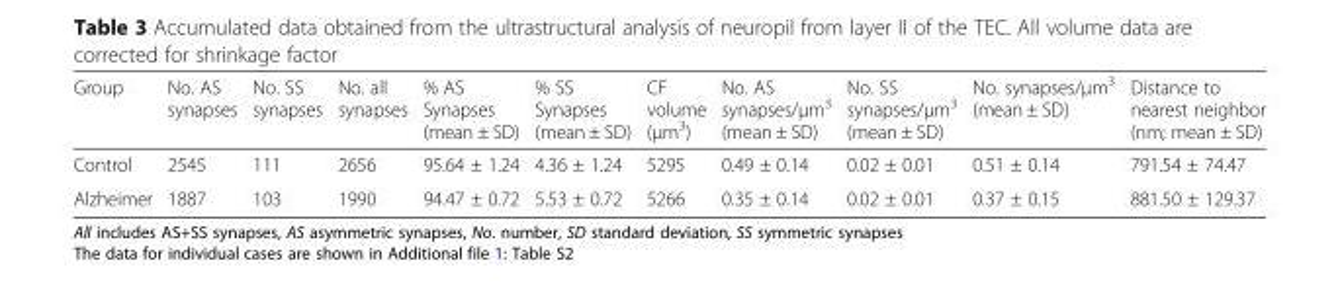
<table><thead><tr><td>Group</td><td>No. AS synapses</td><td>No. SS synapses</td><td>No. all synapses</td><td>% AS Synapses (mean ± SD)</td><td>% SS Synapses (mean ± SD)</td><td>CF volume (μm<sup>3</sup>)</td><td>No. AS synapses/μm<sup>3</sup> (mean ± SD)</td><td>No. SS synapses/μm<sup>3</sup> (mean ± SD)</td><td>No. synapses/μm<sup>3</sup> (mean ± SD)</td><td>Distance to nearest neighbor (nm; mean ± SD)</td></tr></thead><tbody><tr><td>Control</td><td>2545</td><td>111</td><td>2656</td><td>95.64 ± 1.24</td><td>4.36 ± 1.24</td><td>5295</td><td>0.49 ± 0.14</td><td>0.02 ± 0.01</td><td>0.51 ± 0.14</td><td>791.54 ± 74.47</td></tr><tr><td>Alzheimer</td><td>1887</td><td>103</td><td>1990</td><td>94.47 ± 0.72</td><td>5.53 ± 0.72</td><td>5266</td><td>0.35 ± 0.14</td><td>0.02 ± 0.01</td><td>0.37 ± 0.15</td><td>881.50 ± 129.37</td></tr></tbody></table>